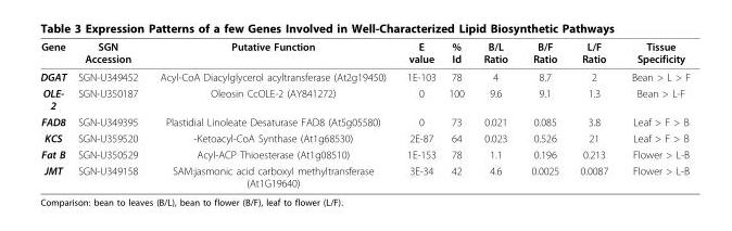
<table><thead><tr><td>Gene</td><td>SGN Accession</td><td>Putative Function</td><td>E value</td><td>% Id</td><td>B/L Ratio</td><td>B/F Ratio</td><td>L/F Ratio</td><td>Tissue Specificity</td></tr></thead><tbody><tr><td>DGAT</td><td>SGN-U349452</td><td>Acyl-CoA Diacylglycerol acyltransferase (At2g19450)</td><td>1E-103</td><td>78</td><td>4</td><td>8.7</td><td>2</td><td>Bean &gt; L &gt; F</td></tr><tr><td>OLE- 2</td><td>SGN-U350187</td><td>Oleosin CcOLE-2 (AY841272)</td><td>0</td><td>100</td><td>9.6</td><td>9.1</td><td>1.3</td><td>Bean &gt; L-F</td></tr><tr><td>FAD8</td><td>SGN-U349395</td><td>Plastidial Linoleate Desaturase FAD8 (At5g05580)</td><td>0</td><td>73</td><td>0.021</td><td>0.085</td><td>3.8</td><td>Leaf &gt; F &gt; B</td></tr><tr><td>KCS</td><td>SGN-U359520</td><td>-Ketoacyl-CoA Synthase (At1g68530)</td><td>2E-87</td><td>64</td><td>0.023</td><td>0.526</td><td>21</td><td>Leaf &gt; F &gt; B</td></tr><tr><td>Fat B</td><td>SGN-U350529</td><td>Acyl-ACP Thioesterase (At1g08510)</td><td>1E-153</td><td>78</td><td>1.1</td><td>0.196</td><td>0.213</td><td>Flower &gt; L-B</td></tr><tr><td>JMT</td><td>SGN-U349158</td><td>SAM:jasmonic acid carboxyl methyltransferase (At1G19640)</td><td>3E-34</td><td>42</td><td>4.6</td><td>0.0025</td><td>0.0087</td><td>Flower &gt; L-B</td></tr></tbody></table>